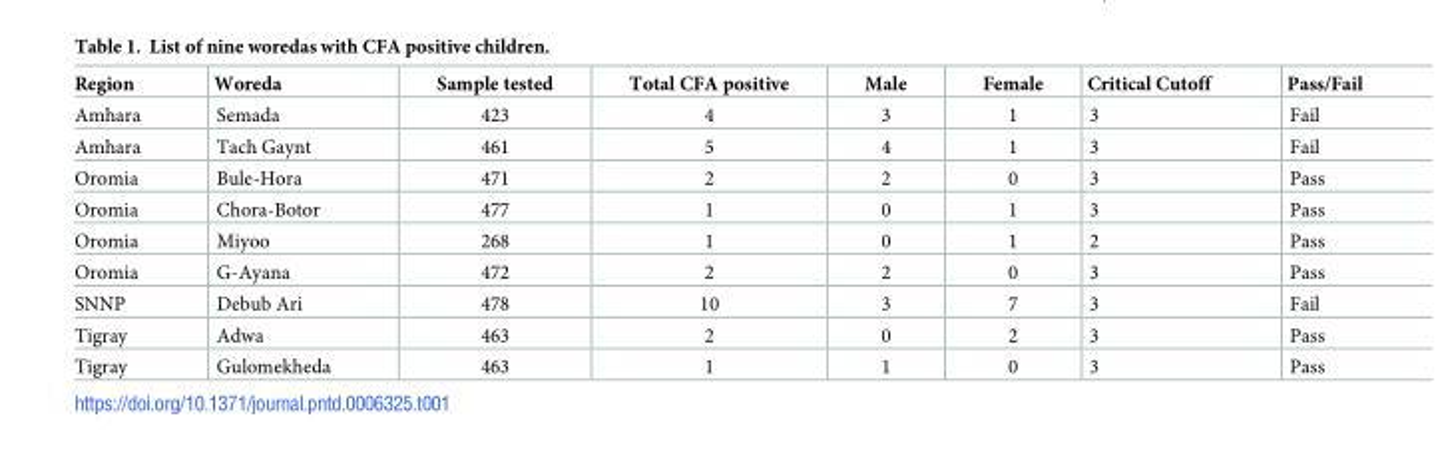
<table><thead><tr><td>Region</td><td>Woreda</td><td>Sample tested</td><td>Total CFA positive</td><td>Male</td><td>Female</td><td>Critical Cutoff</td><td>Pass/Fail</td></tr></thead><tbody><tr><td>Amhara</td><td>Semada</td><td>423</td><td>4</td><td>3</td><td>1</td><td>3</td><td>Fail</td></tr><tr><td>Amhara</td><td>Tach Gaynt</td><td>461</td><td>5</td><td>4</td><td>1</td><td>3</td><td>Fail</td></tr><tr><td>Oromia</td><td>Bule-Hora</td><td>471</td><td>2</td><td>2</td><td>0</td><td>3</td><td>Pass</td></tr><tr><td>Oromia</td><td>Chora-Botor</td><td>477</td><td>1</td><td>0</td><td>1</td><td>3</td><td>Pass</td></tr><tr><td>Oromia</td><td>Miyoo</td><td>268</td><td>1</td><td>0</td><td>1</td><td>2</td><td>Pass</td></tr><tr><td>Oromia</td><td>G-Ayana</td><td>472</td><td>2</td><td>2</td><td>0</td><td>3</td><td>Pass</td></tr><tr><td>SNNP</td><td>Debub Ari</td><td>478</td><td>10</td><td>3</td><td>7</td><td>3</td><td>Fail</td></tr><tr><td>Tigray</td><td>Adwa</td><td>463</td><td>2</td><td>0</td><td>2</td><td>3</td><td>Pass</td></tr><tr><td>Tigray</td><td>Gulomekheda</td><td>463</td><td>1</td><td>1</td><td>0</td><td>3</td><td>Pass</td></tr></tbody></table>